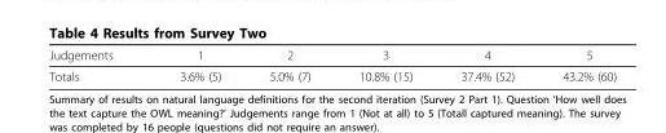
<table><thead><tr><td>Judgements</td><td>1</td><td>2</td><td>3</td><td>4</td><td>5</td></tr></thead><tbody><tr><td>Totals</td><td>3.6% (5)</td><td>5.0% (7)</td><td>10.8% (15)</td><td>37.4% (52)</td><td>43.2% (60)</td></tr></tbody></table>